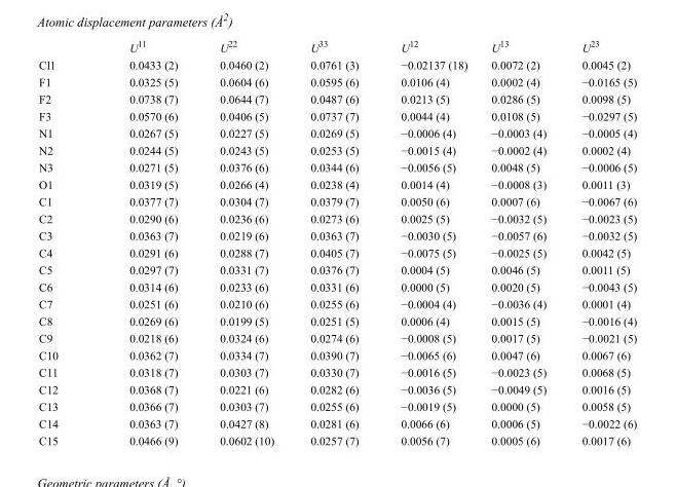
<table><thead><tr><td></td><td>U<sup>11</sup></td><td>U<sup>22</sup></td><td>U<sup>33</sup></td><td>U<sup>12</sup></td><td>U<sup>13</sup></td><td>U<sup>23</sup></td></tr></thead><tbody><tr><td>Cl1</td><td>0.0433 (2)</td><td>0.0460 (2)</td><td>0.0761 (3)</td><td>−0.02137 (18)</td><td>0.0072 (2)</td><td>0.0045 (2)</td></tr><tr><td>F1</td><td>0.0325 (5)</td><td>0.0604 (6)</td><td>0.0595 (6)</td><td>0.0106 (4)</td><td>0.0002 (4)</td><td>−0.0165 (5)</td></tr><tr><td>F2</td><td>0.0738 (7)</td><td>0.0644 (7)</td><td>0.0487 (6)</td><td>0.0213 (5)</td><td>0.0286 (5)</td><td>0.0098 (5)</td></tr><tr><td>F3</td><td>0.0570 (6)</td><td>0.0406 (5)</td><td>0.0737 (7)</td><td>0.0044 (4)</td><td>0.0108 (5)</td><td>−0.0297 (5)</td></tr><tr><td>N1</td><td>0.0267 (5)</td><td>0.0227 (5)</td><td>0.0269 (5)</td><td>−0.0006 (4)</td><td>−0.0003 (4)</td><td>−0.0005 (4)</td></tr><tr><td>N2</td><td>0.0244 (5)</td><td>0.0243 (5)</td><td>0.0253 (5)</td><td>−0.0015 (4)</td><td>−0.0002 (4)</td><td>0.0002 (4)</td></tr><tr><td>N3</td><td>0.0271 (5)</td><td>0.0376 (6)</td><td>0.0344 (6)</td><td>−0.0056 (5)</td><td>0.0048 (5)</td><td>−0.0006 (5)</td></tr><tr><td>O1</td><td>0.0319 (5)</td><td>0.0266 (4)</td><td>0.0238 (4)</td><td>0.0014 (4)</td><td>−0.0008 (3)</td><td>0.0011 (3)</td></tr><tr><td>C1</td><td>0.0377 (7)</td><td>0.0304 (7)</td><td>0.0379 (7)</td><td>0.0050 (6)</td><td>0.0007 (6)</td><td>−0.0067 (6)</td></tr><tr><td>C2</td><td>0.0290 (6)</td><td>0.0236 (6)</td><td>0.0273 (6)</td><td>0.0025 (5)</td><td>−0.0032 (5)</td><td>−0.0023 (5)</td></tr><tr><td>C3</td><td>0.0363 (7)</td><td>0.0219 (6)</td><td>0.0363 (7)</td><td>−0.0030 (5)</td><td>−0.0057 (6)</td><td>−0.0032 (5)</td></tr><tr><td>C4</td><td>0.0291 (6)</td><td>0.0288 (7)</td><td>0.0405 (7)</td><td>−0.0075 (5)</td><td>−0.0025 (5)</td><td>0.0042 (5)</td></tr><tr><td>C5</td><td>0.0297 (7)</td><td>0.0331 (7)</td><td>0.0376 (7)</td><td>0.0004 (5)</td><td>0.0046 (5)</td><td>0.0011 (5)</td></tr><tr><td>C6</td><td>0.0314 (6)</td><td>0.0233 (6)</td><td>0.0331 (6)</td><td>0.0000 (5)</td><td>0.0020 (5)</td><td>−0.0043 (5)</td></tr><tr><td>C7</td><td>0.0251 (6)</td><td>0.0210 (6)</td><td>0.0255 (6)</td><td>−0.0004 (4)</td><td>−0.0036 (4)</td><td>0.0001 (4)</td></tr><tr><td>C8</td><td>0.0269 (6)</td><td>0.0199 (5)</td><td>0.0251 (5)</td><td>0.0006 (4)</td><td>0.0015 (5)</td><td>−0.0016 (4)</td></tr><tr><td>C9</td><td>0.0218 (6)</td><td>0.0324 (6)</td><td>0.0274 (6)</td><td>−0.0008 (5)</td><td>0.0017 (5)</td><td>−0.0021 (5)</td></tr><tr><td>C10</td><td>0.0362 (7)</td><td>0.0334 (7)</td><td>0.0390 (7)</td><td>−0.0065 (6)</td><td>0.0047 (6)</td><td>0.0067 (6)</td></tr><tr><td>C11</td><td>0.0318 (7)</td><td>0.0303 (7)</td><td>0.0330 (7)</td><td>−0.0016 (5)</td><td>−0.0023 (5)</td><td>0.0068 (5)</td></tr><tr><td>C12</td><td>0.0368 (7)</td><td>0.0221 (6)</td><td>0.0282 (6)</td><td>−0.0036 (5)</td><td>−0.0049 (5)</td><td>0.0016 (5)</td></tr><tr><td>C13</td><td>0.0366 (7)</td><td>0.0303 (7)</td><td>0.0255 (6)</td><td>−0.0019 (5)</td><td>0.0000 (5)</td><td>0.0058 (5)</td></tr><tr><td>C14</td><td>0.0363 (7)</td><td>0.0427 (8)</td><td>0.0281 (6)</td><td>0.0066 (6)</td><td>0.0006 (5)</td><td>−0.0022 (6)</td></tr><tr><td>C15</td><td>0.0466 (9)</td><td>0.0602 (10)</td><td>0.0257 (7)</td><td>0.0056 (7)</td><td>0.0005 (6)</td><td>0.0017 (6)</td></tr></tbody></table>